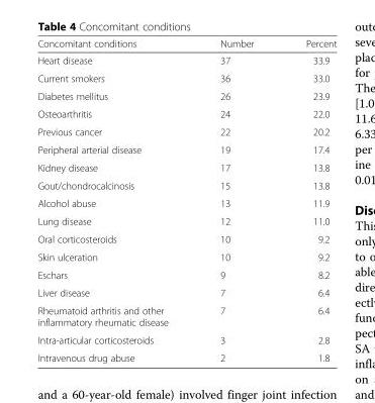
<table><thead><tr><td>Concomitant conditions</td><td>Number</td><td>Percent</td></tr></thead><tbody><tr><td>Heart disease</td><td>37</td><td>33.9</td></tr><tr><td>Current smokers</td><td>36</td><td>33.0</td></tr><tr><td>Diabetes mellitus</td><td>26</td><td>23.9</td></tr><tr><td>Osteoarthritis</td><td>24</td><td>22.0</td></tr><tr><td>Previous cancer</td><td>22</td><td>20.2</td></tr><tr><td>Peripheral arterial disease</td><td>19</td><td>17.4</td></tr><tr><td>Kidney disease</td><td>17</td><td>13.8</td></tr><tr><td>Gout/chondrocalcinosis</td><td>15</td><td>13.8</td></tr><tr><td>Alcohol abuse</td><td>13</td><td>11.9</td></tr><tr><td>Lung disease</td><td>12</td><td>11.0</td></tr><tr><td>Oral corticosteroids</td><td>10</td><td>9.2</td></tr><tr><td>Skin ulceration</td><td>10</td><td>9.2</td></tr><tr><td>Eschars</td><td>9</td><td>8.2</td></tr><tr><td>Liver disease</td><td>7</td><td>6.4</td></tr><tr><td>Rheumatoid arthritis and other inflammatory rheumatic disease</td><td>7</td><td>6.4</td></tr><tr><td>Intra-articular corticosteroids</td><td>3</td><td>2.8</td></tr><tr><td>Intravenous drug abuse</td><td>2</td><td>1.8</td></tr></tbody></table>